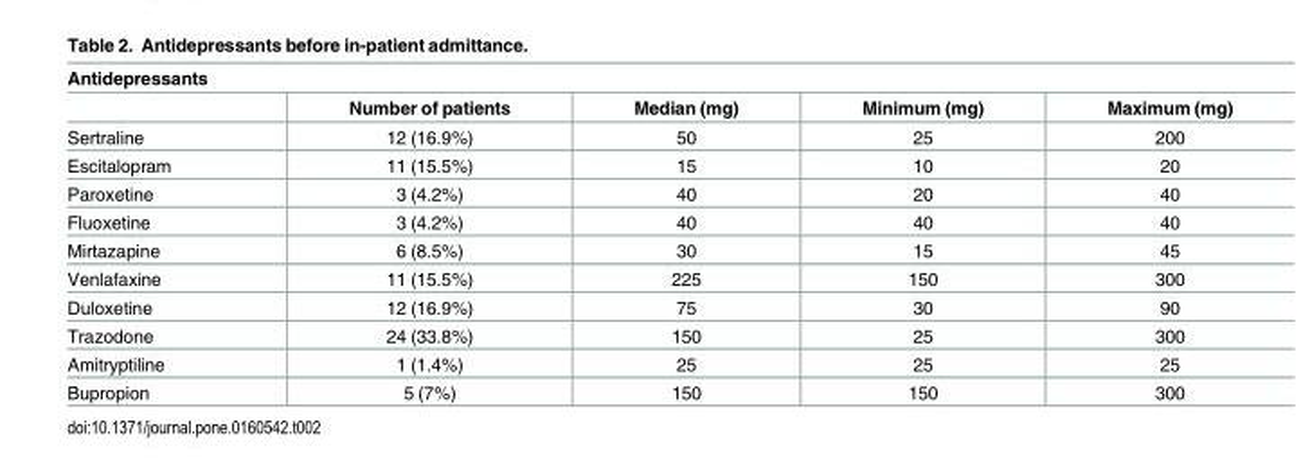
<table><thead><tr><td colspan="5">Antidepressants</td></tr><tr><td></td><td>Number of patients</td><td>Median (mg)</td><td>Minimum (mg)</td><td>Maximum (mg)</td></tr></thead><tbody><tr><td>Sertraline</td><td>12 (16.9%)</td><td>50</td><td>25</td><td>200</td></tr><tr><td>Escitalopram</td><td>11 (15.5%)</td><td>15</td><td>10</td><td>20</td></tr><tr><td>Paroxetine</td><td>3 (4.2%)</td><td>40</td><td>20</td><td>40</td></tr><tr><td>Fluoxetine</td><td>3 (4.2%)</td><td>40</td><td>40</td><td>40</td></tr><tr><td>Mirtazapine</td><td>6 (8.5%)</td><td>30</td><td>15</td><td>45</td></tr><tr><td>Venlafaxine</td><td>11 (15.5%)</td><td>225</td><td>150</td><td>300</td></tr><tr><td>Duloxetine</td><td>12 (16.9%)</td><td>75</td><td>30</td><td>90</td></tr><tr><td>Trazodone</td><td>24 (33.8%)</td><td>150</td><td>25</td><td>300</td></tr><tr><td>Amitryptiline</td><td>1 (1.4%)</td><td>25</td><td>25</td><td>25</td></tr><tr><td>Bupropion</td><td>5 (7%)</td><td>150</td><td>150</td><td>300</td></tr></tbody></table>